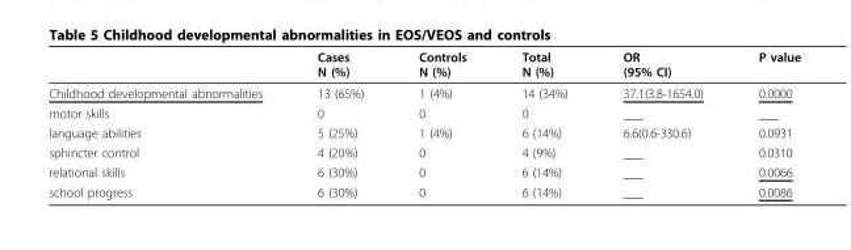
<table><thead><tr><td></td><td>Cases N (%)</td><td>Controls N (%)</td><td>Total N (%)</td><td>OR (95% CI)</td><td>P value</td></tr></thead><tbody><tr><td>Childhood developmental abnormalities</td><td>13 (65%)</td><td>1 (4%)</td><td>14 (34%)</td><td>37.1(3.8-1654.0)</td><td>0.0000</td></tr><tr><td>motor skills</td><td>0</td><td>0</td><td>0</td><td>___</td><td>___</td></tr><tr><td>language abilities</td><td>5 (25%)</td><td>1 (4%)</td><td>6 (14%)</td><td>6.6(0.6-330.6)</td><td>0.0931</td></tr><tr><td>sphincter control</td><td>4 (20%)</td><td>0</td><td>4 (9%)</td><td>___</td><td>0.0310</td></tr><tr><td>relational skills</td><td>6 (30%)</td><td>0</td><td>6 (14%)</td><td>___</td><td>0.0066</td></tr><tr><td>school progress</td><td>6 (30%)</td><td>0</td><td>6 (14%)</td><td>___</td><td>0.0086</td></tr></tbody></table>